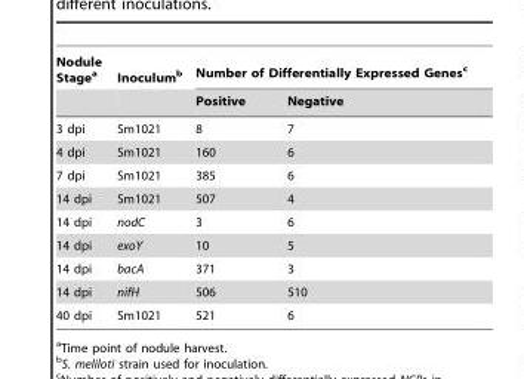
<table><thead><tr><td rowspan="2">Nodule Stage<sup>a</sup></td><td rowspan="2">Inoculum<sup>b</sup></td><td colspan="2">Number of Differentially Expressed Genes<sup>c</sup></td></tr><tr><td>Positive</td><td>Negative</td></tr></thead><tbody><tr><td>3 dpi</td><td>Sm1021</td><td>8</td><td>7</td></tr><tr><td>4 dpi</td><td>Sm1021</td><td>160</td><td>6</td></tr><tr><td>7 dpi</td><td>Sm1021</td><td>385</td><td>6</td></tr><tr><td>14 dpi</td><td>Sm1021</td><td>507</td><td>4</td></tr><tr><td>14 dpi</td><td>nodC</td><td>3</td><td>6</td></tr><tr><td>14 dpi</td><td>exoY</td><td>10</td><td>5</td></tr><tr><td>14 dpi</td><td>bacA</td><td>371</td><td>3</td></tr><tr><td>14 dpi</td><td>nifH</td><td>506</td><td>510</td></tr><tr><td>40 dpi</td><td>Sm1021</td><td>521</td><td>6</td></tr></tbody></table>